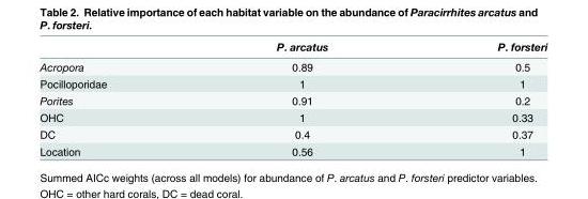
<table><thead><tr><td></td><td>P. arcatus</td><td>P. forsteri</td></tr></thead><tbody><tr><td>Acropora</td><td>0.89</td><td>0.5</td></tr><tr><td>Pocilloporidae</td><td>1</td><td>1</td></tr><tr><td>Porites</td><td>0.91</td><td>0.2</td></tr><tr><td>OHC</td><td>1</td><td>0.33</td></tr><tr><td>DC</td><td>0.4</td><td>0.37</td></tr><tr><td>Location</td><td>0.56</td><td>1</td></tr></tbody></table>